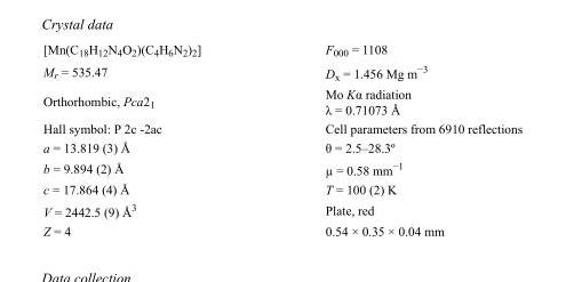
<table><tbody><tr><td>[Mn(C<sub>18</sub>H<sub>12</sub>N<sub>4</sub>O<sub>2</sub>)(C<sub>4</sub>H<sub>6</sub>N<sub>2</sub>)<sub>2</sub>]</td><td>F000 = 1108</td></tr><tr><td>M<sub>r</sub> = 535.47</td><td>D<sub>x</sub> = 1.456 Mg m<sup>−3</sup></td></tr><tr><td>Orthorhombic, Pca2<sub>1</sub></td><td>Mo Kα radiation λ = 0.71073 Å</td></tr><tr><td>Hall symbol: P 2c -2ac</td><td>Cell parameters from 6910 reflections</td></tr><tr><td>a = 13.819 (3) Å</td><td>θ = 2.5–28.3º</td></tr><tr><td>b = 9.894 (2) Å</td><td>µ = 0.58 mm<sup>−1</sup></td></tr><tr><td>c = 17.864 (4) Å</td><td>T = 100 (2) K</td></tr><tr><td>V = 2442.5 (9) Å<sup>3</sup></td><td>Plate, red</td></tr><tr><td>Z = 4</td><td>0.54 × 0.35 × 0.04 mm</td></tr></tbody></table>